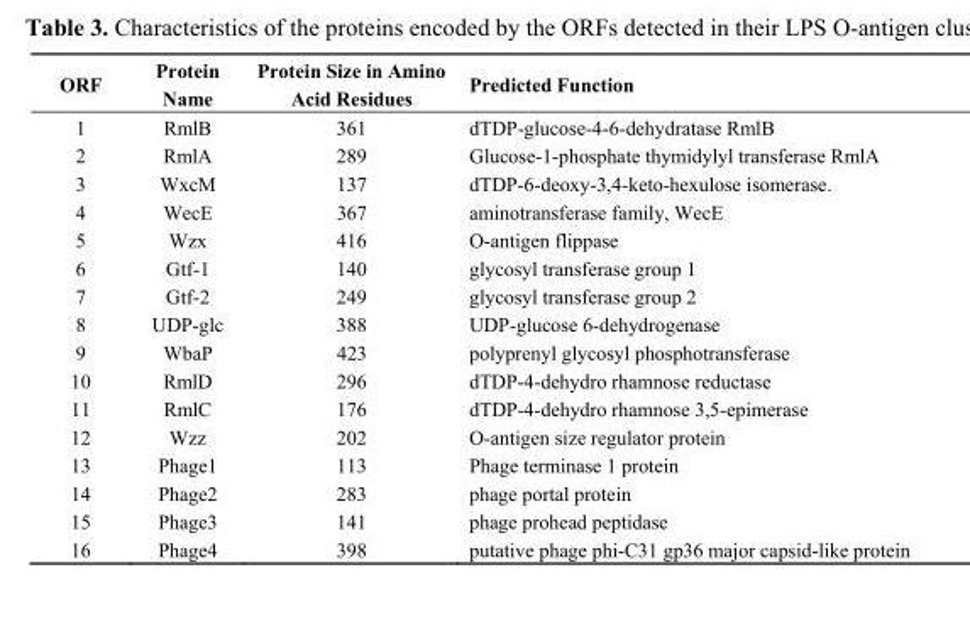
<table><thead><tr><td>ORF</td><td>Protein Name</td><td>Protein Size in Amino Acid Residues</td><td>Predicted Function</td></tr></thead><tbody><tr><td>1</td><td>RmlB</td><td>361</td><td>dTDP-glucose-4-6-dehydratase RmlB</td></tr><tr><td>2</td><td>RmlA</td><td>289</td><td>Glucose-1-phosphate thymidylyl transferase RmlA</td></tr><tr><td>3</td><td>WxcM</td><td>137</td><td>dTDP-6-deoxy-3,4-keto-hexulose isomerase.</td></tr><tr><td>4</td><td>WecE</td><td>367</td><td>aminotransferase family, WecE</td></tr><tr><td>5</td><td>Wzx</td><td>416</td><td>O-antigen flippase</td></tr><tr><td>6</td><td>Gtf-1</td><td>140</td><td>glycosyl transferase group 1</td></tr><tr><td>7</td><td>Gtf-2</td><td>249</td><td>glycosyl transferase group 2</td></tr><tr><td>8</td><td>UDP-glc</td><td>388</td><td>UDP-glucose 6-dehydrogenase</td></tr><tr><td>9</td><td>WbaP</td><td>423</td><td>polyprenyl glycosyl phosphotransferase</td></tr><tr><td>10</td><td>RmlD</td><td>296</td><td>dTDP-4-dehydro rhamnose reductase</td></tr><tr><td>11</td><td>RmlC</td><td>176</td><td>dTDP-4-dehydro rhamnose 3,5-epimerase</td></tr><tr><td>12</td><td>Wzz</td><td>202</td><td>O-antigen size regulator protein</td></tr><tr><td>13</td><td>Phage1</td><td>113</td><td>Phage terminase 1 protein</td></tr><tr><td>14</td><td>Phage2</td><td>283</td><td>phage portal protein</td></tr><tr><td>15</td><td>Phage3</td><td>141</td><td>phage prohead peptidase</td></tr><tr><td>16</td><td>Phage4</td><td>398</td><td>putative phage phi-C31 gp36 major capsid-like protein</td></tr></tbody></table>